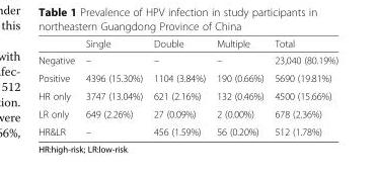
<table><thead><tr><td></td><td>Single</td><td>Double</td><td>Multiple</td><td>Total</td></tr></thead><tbody><tr><td>Negative</td><td>–</td><td>–</td><td>–</td><td>23,040 (80.19%)</td></tr><tr><td>Positive</td><td>4396 (15.30%)</td><td>1104 (3.84%)</td><td>190 (0.66%)</td><td>5690 (19.81%)</td></tr><tr><td>HR only</td><td>3747 (13.04%)</td><td>621 (2.16%)</td><td>132 (0.46%)</td><td>4500 (15.66%)</td></tr><tr><td>LR only</td><td>649 (2.26%)</td><td>27 (0.09%)</td><td>2 (0.00%)</td><td>678 (2.36%)</td></tr><tr><td>HR&amp;LR</td><td>–</td><td>456 (1.59%)</td><td>56 (0.20%)</td><td>512 (1.78%)</td></tr></tbody></table>